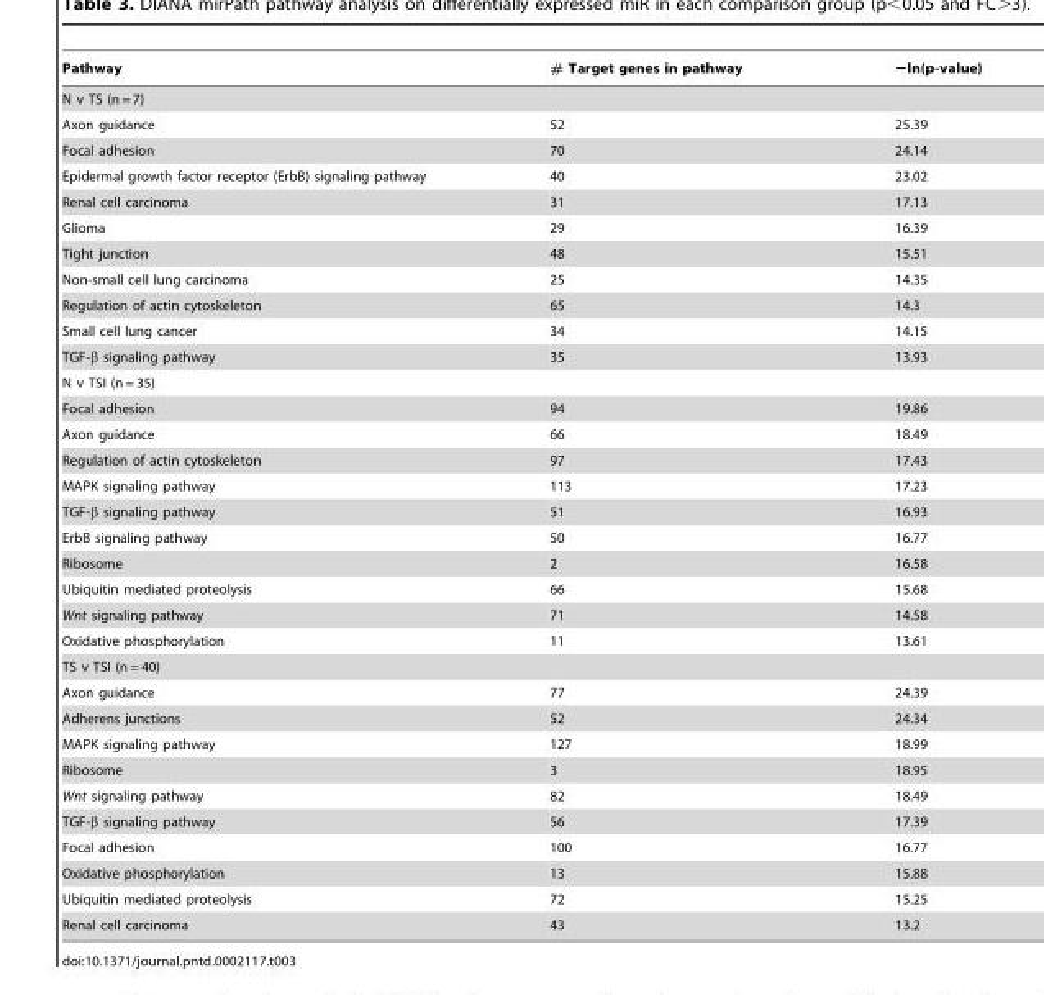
<table><thead><tr><td>Pathway</td><td># Target genes in pathway</td><td>−ln(p-value)</td></tr></thead><tbody><tr><td colspan="3">N v TS (n = 7)</td></tr><tr><td>Axon guidance</td><td>52</td><td>25.39</td></tr><tr><td>Focal adhesion</td><td>70</td><td>24.14</td></tr><tr><td>Epidermal growth factor receptor (ErbB) signaling pathway</td><td>40</td><td>23.02</td></tr><tr><td>Renal cell carcinoma</td><td>31</td><td>17.13</td></tr><tr><td>Glioma</td><td>29</td><td>16.39</td></tr><tr><td>Tight junction</td><td>48</td><td>15.51</td></tr><tr><td>Non-small cell lung carcinoma</td><td>25</td><td>14.35</td></tr><tr><td>Regulation of actin cytoskeleton</td><td>65</td><td>14.3</td></tr><tr><td>Small cell lung cancer</td><td>34</td><td>14.15</td></tr><tr><td>TGF-β signaling pathway</td><td>35</td><td>13.93</td></tr><tr><td colspan="3">N v TSI (n = 35)</td></tr><tr><td>Focal adhesion</td><td>94</td><td>19.86</td></tr><tr><td>Axon guidance</td><td>66</td><td>18.49</td></tr><tr><td>Regulation of actin cytoskeleton</td><td>97</td><td>17.43</td></tr><tr><td>MAPK signaling pathway</td><td>113</td><td>17.23</td></tr><tr><td>TGF-β signaling pathway</td><td>51</td><td>16.93</td></tr><tr><td>ErbB signaling pathway</td><td>50</td><td>16.77</td></tr><tr><td>Ribosome</td><td>2</td><td>16.58</td></tr><tr><td>Ubiquitin mediated proteolysis</td><td>66</td><td>15.68</td></tr><tr><td>Wnt signaling pathway</td><td>71</td><td>14.58</td></tr><tr><td>Oxidative phosphorylation</td><td>11</td><td>13.61</td></tr><tr><td colspan="3">TS v TSI (n = 40)</td></tr><tr><td>Axon guidance</td><td>77</td><td>24.39</td></tr><tr><td>Adherens junctions</td><td>52</td><td>24.34</td></tr><tr><td>MAPK signaling pathway</td><td>127</td><td>18.99</td></tr><tr><td>Ribosome</td><td>3</td><td>18.95</td></tr><tr><td>Wnt signaling pathway</td><td>82</td><td>18.49</td></tr><tr><td>TGF-β signaling pathway</td><td>56</td><td>17.39</td></tr><tr><td>Focal adhesion</td><td>100</td><td>16.77</td></tr><tr><td>Oxidative phosphorylation</td><td>13</td><td>15.88</td></tr><tr><td>Ubiquitin mediated proteolysis</td><td>72</td><td>15.25</td></tr><tr><td>Renal cell carcinoma</td><td>43</td><td>13.2</td></tr></tbody></table>